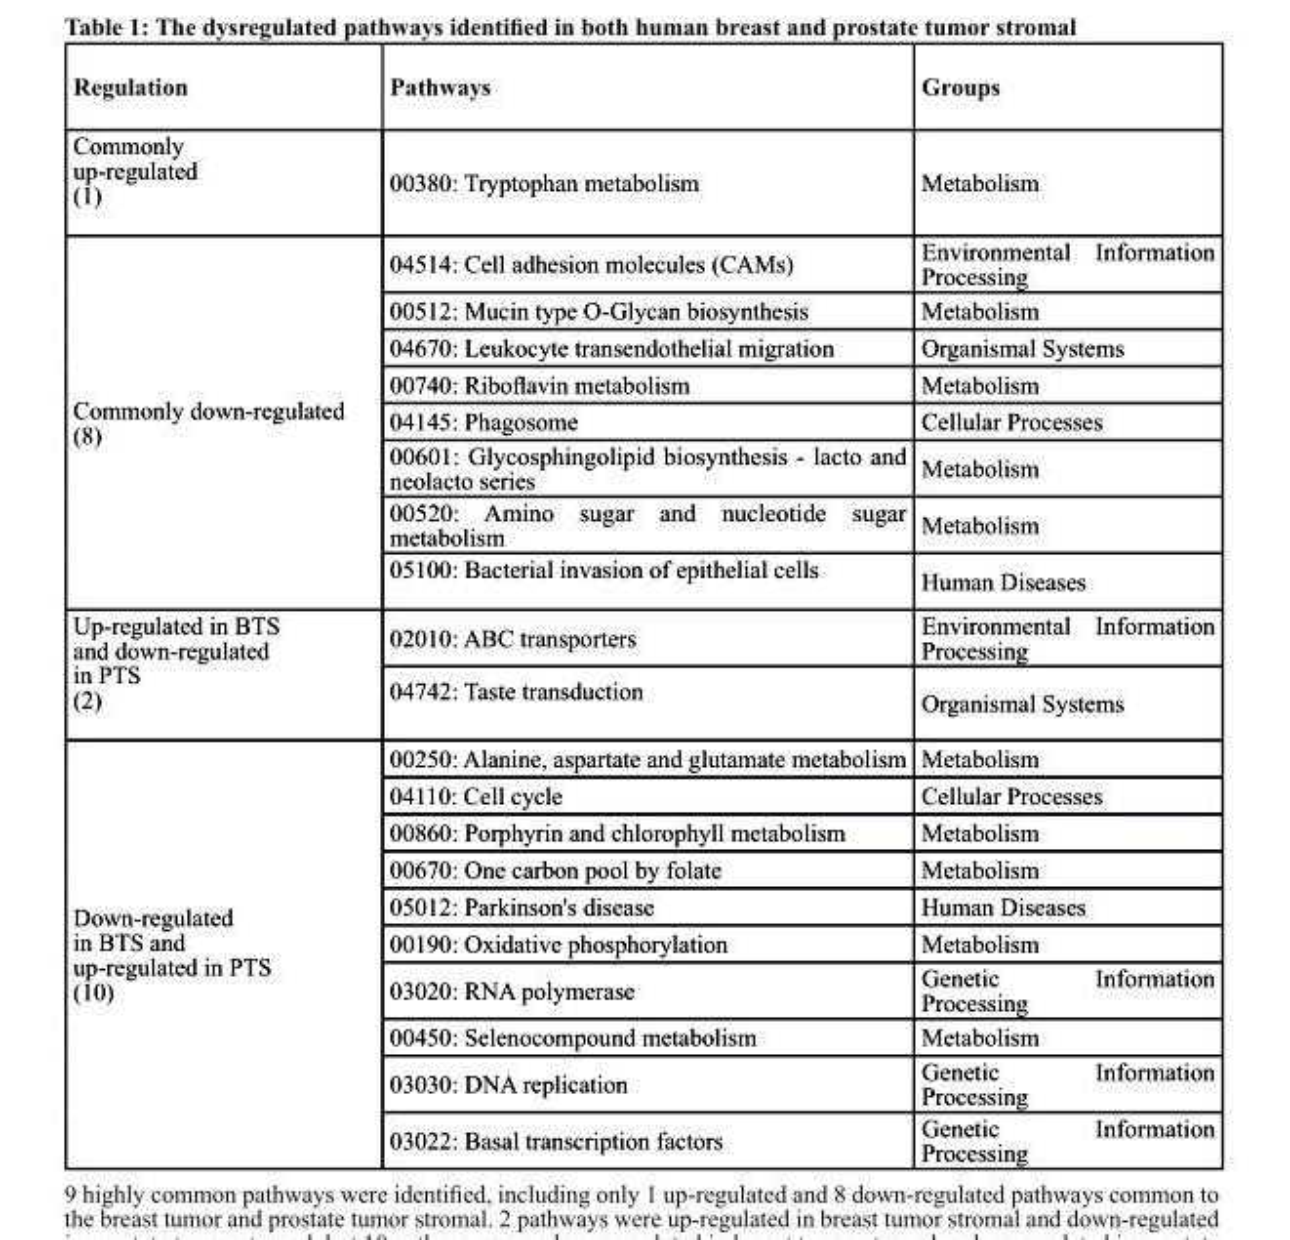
<table><thead><tr><td>regulation</td><td>Pathways</td><td>Groups</td></tr></thead><tbody><tr><td>Commonly up-regulated (1)</td><td>00380: Tryptophan metabolism</td><td>Metabolism</td></tr><tr><td rowspan="8">Commonly down-regulated (8)</td><td>04514: Cell adhesion molecules (CAMs)</td><td>Environmental Information Processing</td></tr><tr><td>00512: Mucin type O-Glycan biosynthesis</td><td>Metabolism</td></tr><tr><td>04670: Leukocyte transendothelial migration</td><td>Organismal Systems</td></tr><tr><td>00740: Riboflavin metabolism</td><td>Metabolism</td></tr><tr><td>04145: Phagosome</td><td>Cellular Processes</td></tr><tr><td>00601: Glycosphingolipid biosynthesis - lacto and neolacto series</td><td>Metabolism</td></tr><tr><td>00520: Amino sugar and nucleotide sugar metabolism</td><td>Metabolism</td></tr><tr><td>05100: Bacterial invasion of epithelial cells</td><td>Human Diseases</td></tr><tr><td rowspan="2">Up-regulated in BTS and down-regulated in PTS (2)</td><td>02010: ABC transporters</td><td>Environmental Information Processing</td></tr><tr><td>04742: Taste transduction</td><td>Organismal Systems</td></tr><tr><td rowspan="10">Down-regulated in BTS and up-regulated in PTS (10)</td><td>00250: Alanine, aspartate and glutamate metabolism</td><td>Metabolism</td></tr><tr><td>04110: Cell cycle</td><td>Cellular Processes</td></tr><tr><td>00860: Porphyrin and chlorophyll metabolism</td><td>Metabolism</td></tr><tr><td>00670: One carbon pool by folate</td><td>Metabolism</td></tr><tr><td>05012: Parkinson&#x27;s disease</td><td>Human Diseases</td></tr><tr><td>00190: Oxidative phosphorylation</td><td>Metabolism</td></tr><tr><td>03020: RNA polymerase</td><td>Genetic Information Processing</td></tr><tr><td>00450: Selenocompound metabolism</td><td>Metabolism</td></tr><tr><td>03030: DNA replication</td><td>Genetic Information Processing</td></tr><tr><td>03022: Basal transcription factors</td><td>Genetic Information Processing</td></tr></tbody></table>